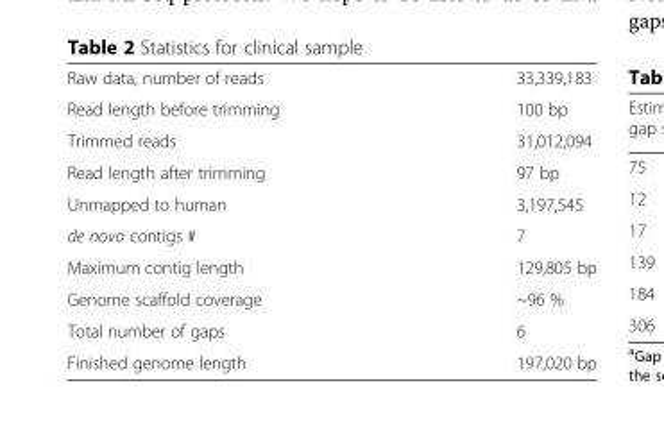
<table><tbody><tr><td>Raw data, number of reads</td><td>33,339,183</td></tr><tr><td>Read length before trimming</td><td>100 bp</td></tr><tr><td>Trimmed reads</td><td>31,012,094</td></tr><tr><td>Read length after trimming</td><td>97 bp</td></tr><tr><td>Unmapped to human</td><td>3,197,545</td></tr><tr><td>de novo contigs #</td><td>7</td></tr><tr><td>Maximum contig length</td><td>129,805 bp</td></tr><tr><td>Genome scaffold coverage</td><td>~96 %</td></tr><tr><td>Total number of gaps</td><td>6</td></tr><tr><td>Finished genome length</td><td>197,020 bp</td></tr></tbody></table>